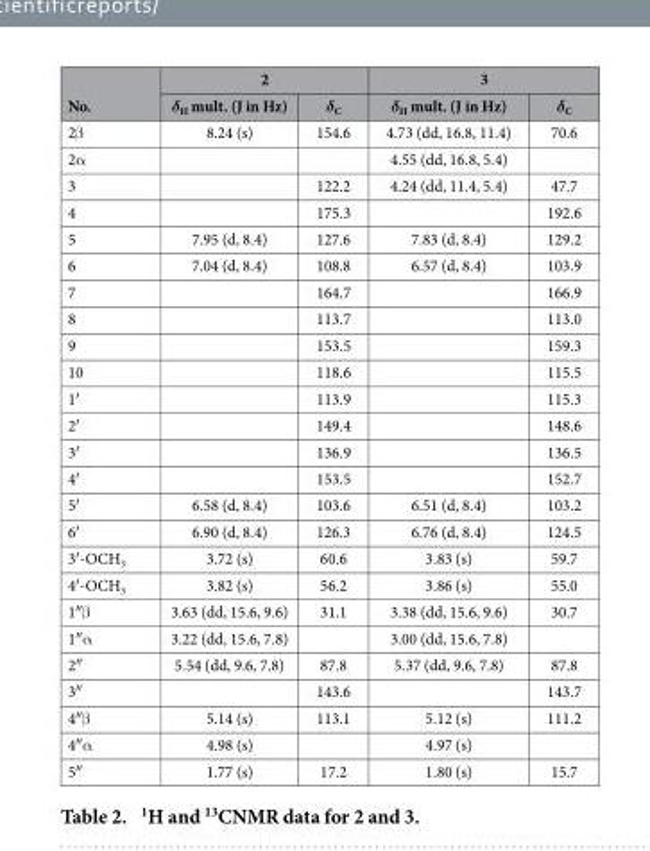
<table><thead><tr><td rowspan="2">No.</td><td colspan="2">2</td><td colspan="2">3</td></tr><tr><td>δ<sub>H</sub> mult. (J in Hz)</td><td>δ<sub>C</sub></td><td>δ<sub>H</sub> mult. (J in Hz)</td><td>δ<sub>C</sub></td></tr></thead><tbody><tr><td>2β</td><td>8.24 (s)</td><td>154.6</td><td>4.73 (dd, 16.8, 11.4)</td><td>70.6</td></tr><tr><td>2α</td><td></td><td></td><td>4.55 (dd, 16.8, 5.4)</td><td></td></tr><tr><td>3</td><td></td><td>122.2</td><td>4.24 (dd, 11.4, 5.4)</td><td>47.7</td></tr><tr><td>4</td><td></td><td>175.3</td><td></td><td>192.6</td></tr><tr><td>5</td><td>7.95 (d, 8.4)</td><td>127.6</td><td>7.83 (d, 8.4)</td><td>129.2</td></tr><tr><td>6</td><td>7.04 (d, 8.4)</td><td>108.8</td><td>6.57 (d, 8.4)</td><td>103.9</td></tr><tr><td>7</td><td></td><td>164.7</td><td></td><td>166.9</td></tr><tr><td>8</td><td></td><td>113.7</td><td></td><td>113.0</td></tr><tr><td>9</td><td></td><td>153.5</td><td></td><td>159.3</td></tr><tr><td>10</td><td></td><td>118.6</td><td></td><td>115.5</td></tr><tr><td>1′</td><td></td><td>113.9</td><td></td><td>115.3</td></tr><tr><td>2′</td><td></td><td>149.4</td><td></td><td>148.6</td></tr><tr><td>3′</td><td></td><td>136.9</td><td></td><td>136.5</td></tr><tr><td>4′</td><td></td><td>153.5</td><td></td><td>152.7</td></tr><tr><td>5′</td><td>6.58 (d, 8.4)</td><td>103.6</td><td>6.51 (d, 8.4)</td><td>103.2</td></tr><tr><td>6′</td><td>6.90 (d, 8.4)</td><td>126.3</td><td>6.76 (d, 8.4)</td><td>124.5</td></tr><tr><td>3′ -OCH<sub>3</sub></td><td>3.72 (s)</td><td>60.6</td><td>3.83 (s)</td><td>59.7</td></tr><tr><td>4′ -OCH<sub>3</sub></td><td>3.82 (s)</td><td>56.2</td><td>3.86 (s)</td><td>55.0</td></tr><tr><td>1″ β</td><td>3.63 (dd, 15.6, 9.6)</td><td>31.1</td><td>3.38 (dd, 15.6, 9.6)</td><td>30.7</td></tr><tr><td>1″ α</td><td>3.22 (dd, 15.6, 7.8)</td><td></td><td>3.00 (dd, 15.6, 7.8)</td><td></td></tr><tr><td>2″</td><td>5.54 (dd, 9.6, 7.8)</td><td>87.8</td><td>5.37 (dd, 9.6, 7.8)</td><td>87.8</td></tr><tr><td>3″</td><td></td><td>143.6</td><td></td><td>143.7</td></tr><tr><td>4″ β</td><td>5.14 (s)</td><td>113.1</td><td>5.12 (s)</td><td>111.2</td></tr><tr><td>4″ α</td><td>4.98 (s)</td><td></td><td>4.97 (s)</td><td></td></tr><tr><td>5″</td><td>1.77 (s)</td><td>17.2</td><td>1.80 (s)</td><td>15.7</td></tr></tbody></table>